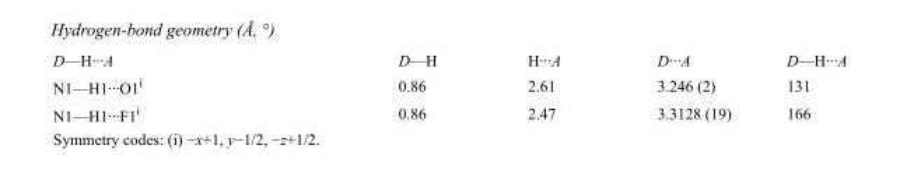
<table><tbody><tr><td>D—H···A</td><td>D—H</td><td>H···A</td><td>D···A</td><td>D—H···A</td></tr><tr><td>N1—H1···O1<sup>i</sup></td><td>0.86</td><td>2.61</td><td>3.246 (2)</td><td>131</td></tr><tr><td>N1—H1···F1<sup>i</sup></td><td>0.86</td><td>2.47</td><td>3.3128 (19)</td><td>166</td></tr></tbody></table>